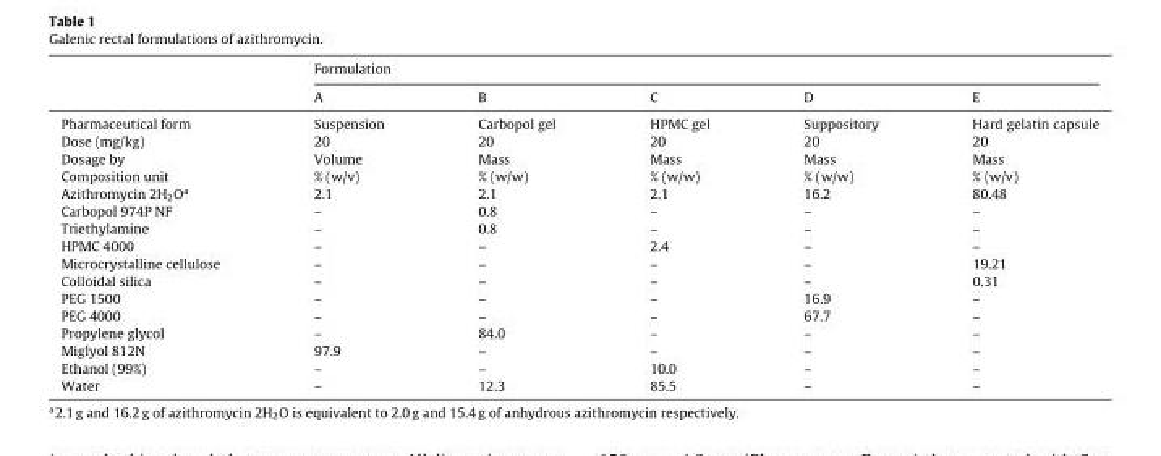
<table><thead><tr><td rowspan="2"></td><td colspan="5">Formulation</td></tr><tr><td>A</td><td>B</td><td>C</td><td>D</td><td>E</td></tr></thead><tbody><tr><td>Pharmaceutical form</td><td>Suspension</td><td>Carbopol gel</td><td>HPMC gel</td><td>Suppository</td><td>Hard gelatin capsule</td></tr><tr><td>Dose (mg/kg)</td><td>20</td><td>20</td><td>20</td><td>20</td><td>20</td></tr><tr><td>Dosage by</td><td>Volume</td><td>Mass</td><td>Mass</td><td>Mass</td><td>Mass</td></tr><tr><td>Composition unit</td><td>% (w/v)</td><td>% (w/w)</td><td>% (w/w)</td><td>% (w/w)</td><td>% (w/v)</td></tr><tr><td>Azithromycin 2H<sub>2</sub>O<sup>a</sup></td><td>2.1</td><td>2.1</td><td>2.1</td><td>16.2</td><td>80.48</td></tr><tr><td>Carbopol 974P NF</td><td>–</td><td>0.8</td><td>–</td><td>–</td><td>–</td></tr><tr><td>Triethylamine</td><td>–</td><td>0.8</td><td>–</td><td>–</td><td>–</td></tr><tr><td>HPMC 4000</td><td>–</td><td>–</td><td>2.4</td><td>–</td><td>–</td></tr><tr><td>Microcrystalline cellulose</td><td>–</td><td>–</td><td>–</td><td>–</td><td>19.21</td></tr><tr><td>Colloidal silica</td><td>–</td><td>–</td><td>–</td><td>–</td><td>0.31</td></tr><tr><td>PEG 1500</td><td>–</td><td>–</td><td>–</td><td>16.9</td><td>–</td></tr><tr><td>PEG 4000</td><td>–</td><td>–</td><td>–</td><td>67.7</td><td>–</td></tr><tr><td>Propylene glycol</td><td>–</td><td>84.0</td><td>–</td><td>–</td><td>–</td></tr><tr><td>Miglyol 812N</td><td>97.9</td><td>–</td><td>–</td><td>–</td><td>–</td></tr><tr><td>Ethanol (99%)</td><td>–</td><td>–</td><td>10.0</td><td>–</td><td>–</td></tr><tr><td>Water</td><td>–</td><td>12.3</td><td>85.5</td><td>–</td><td>–</td></tr></tbody></table>